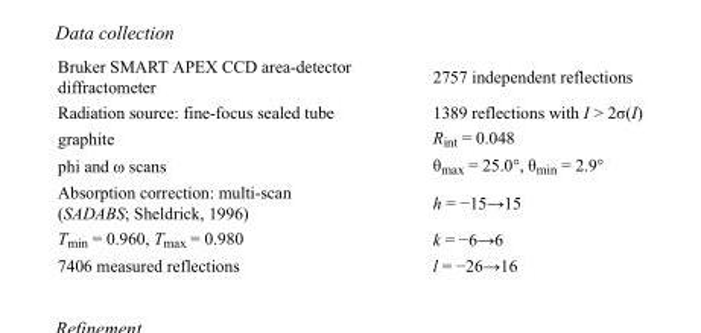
<table><tbody><tr><td>Bruker SMART APEX CCD area-detector diffractometer</td><td>2757 independent reflections</td></tr><tr><td>Radiation source: fine-focus sealed tube</td><td>1389 reflections with I &gt; 2σ(I)</td></tr><tr><td>graphite</td><td>R<sub>int</sub> = 0.048</td></tr><tr><td>phi and ω scans</td><td>θ<sub>max</sub> = 25.0°, θ<sub>min</sub> = 2.9°</td></tr><tr><td>Absorption correction: multi-scan (SADABS; Sheldrick, 1996)</td><td>h = −15→15</td></tr><tr><td>T<sub>min</sub> = 0.960, T<sub>max</sub> = 0.980</td><td>k = −6→6</td></tr><tr><td>7406 measured reflections</td><td>l = −26→16</td></tr></tbody></table>